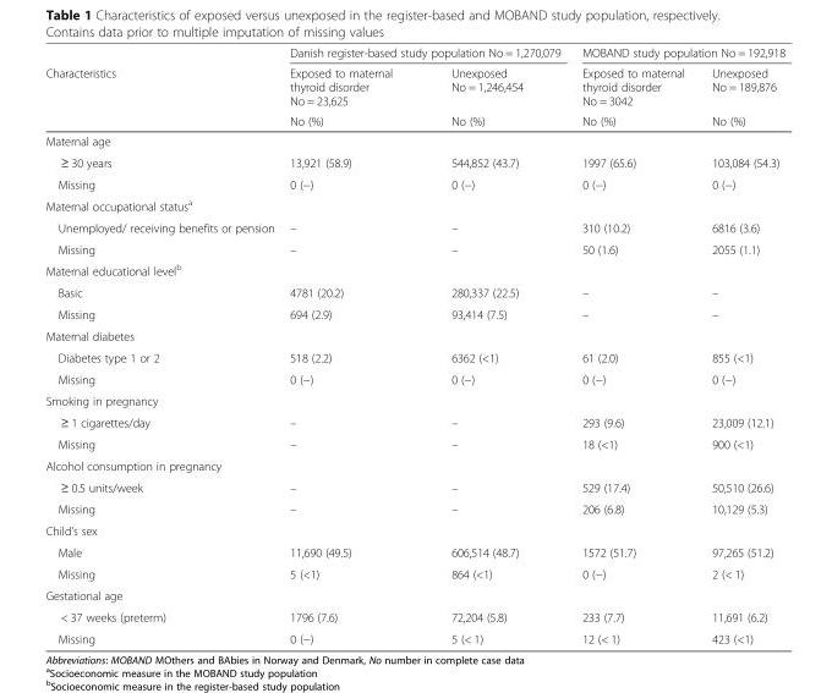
<table><thead><tr><td rowspan="3">Characteristics</td><td colspan="2">Danish register-based study population No = 1,270,079</td><td colspan="2">MOBAND study population No = 192,918</td></tr><tr><td rowspan="2">Exposed to maternal thyroid disorder No = 23,625 No (%)</td><td rowspan="2">Unexposed No = 1,246,454 No (%)</td><td rowspan="2">Exposed to maternal thyroid disorder No = 3042 No (%)</td><td rowspan="2">Unexposed No = 189,876 No (%)</td></tr><tr></tr></thead><tbody><tr><td colspan="5">Maternal age</td></tr><tr><td>≥ 30 years</td><td>13,921 (58.9)</td><td>544,852 (43.7)</td><td>1997 (65.6)</td><td>103,084 (54.3)</td></tr><tr><td>Missing</td><td>0 (−)</td><td>0 (−)</td><td>0 (−)</td><td>0 (−)</td></tr><tr><td colspan="5">Maternal occupational status<sup>a</sup></td></tr><tr><td>Unemployed/ receiving benefits or pension</td><td>–</td><td>–</td><td>310 (10.2)</td><td>6816 (3.6)</td></tr><tr><td>Missing</td><td>–</td><td>–</td><td>50 (1.6)</td><td>2055 (1.1)</td></tr><tr><td colspan="5">Maternal educational level<sup>b</sup></td></tr><tr><td>Basic</td><td>4781 (20.2)</td><td>280,337 (22.5)</td><td>–</td><td>–</td></tr><tr><td>Missing</td><td>694 (2.9)</td><td>93,414 (7.5)</td><td>–</td><td>–</td></tr><tr><td colspan="5">Maternal diabetes</td></tr><tr><td>Diabetes type 1 or 2</td><td>518 (2.2)</td><td>6362 (&lt;1)</td><td>61 (2.0)</td><td>855 (&lt;1)</td></tr><tr><td>Missing</td><td>0 (−)</td><td>0 (−)</td><td>0 (−)</td><td>0 (−)</td></tr><tr><td colspan="5">Smoking in pregnancy</td></tr><tr><td>≥ 1 cigarettes/day</td><td>–</td><td>–</td><td>293 (9.6)</td><td>23,009 (12.1)</td></tr><tr><td>Missing</td><td>–</td><td>–</td><td>18 (&lt;1)</td><td>900 (&lt;1)</td></tr><tr><td colspan="5">Alcohol consumption in pregnancy</td></tr><tr><td>≥ 0.5 units/week</td><td>–</td><td>–</td><td>529 (17.4)</td><td>50,510 (26.6)</td></tr><tr><td>Missing</td><td>–</td><td>–</td><td>206 (6.8)</td><td>10,129 (5.3)</td></tr><tr><td colspan="5">Child’s sex</td></tr><tr><td>Male</td><td>11,690 (49.5)</td><td>606,514 (48.7)</td><td>1572 (51.7)</td><td>97,265 (51.2)</td></tr><tr><td>Missing</td><td>5 (&lt;1)</td><td>864 (&lt;1)</td><td>0 (−)</td><td>2 (&lt; 1)</td></tr><tr><td colspan="5">Gestational age</td></tr><tr><td>&lt; 37 weeks (preterm)</td><td>1796 (7.6)</td><td>72,204 (5.8)</td><td>233 (7.7)</td><td>11,691 (6.2)</td></tr><tr><td>Missing</td><td>0 (−)</td><td>5 (&lt; 1)</td><td>12 (&lt; 1)</td><td>423 (&lt;1)</td></tr></tbody></table>